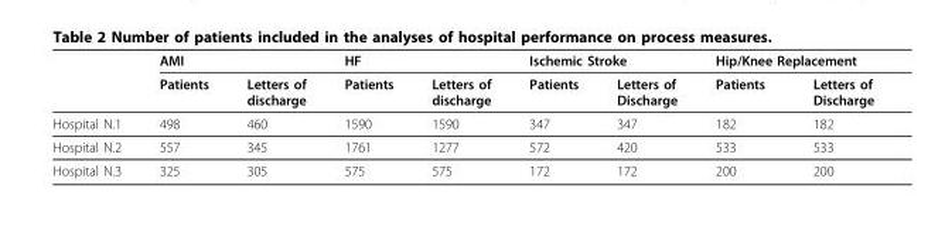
<table><thead><tr><td rowspan="2"></td><td colspan="2">AMI</td><td colspan="2">HF</td><td colspan="2">Ischemic Stroke</td><td colspan="2">Hip/Knee Replacement</td></tr><tr><td>Patients</td><td>Letters of discharge</td><td>Patients</td><td>Letters of discharge</td><td>Patients</td><td>Letters of Discharge</td><td>Patients</td><td>Letters of Discharge</td></tr></thead><tbody><tr><td>Hospital N.1</td><td>498</td><td>460</td><td>1590</td><td>1590</td><td>347</td><td>347</td><td>182</td><td>182</td></tr><tr><td>Hospital N.2</td><td>557</td><td>345</td><td>1761</td><td>1277</td><td>572</td><td>420</td><td>533</td><td>533</td></tr><tr><td>Hospital N.3</td><td>325</td><td>305</td><td>575</td><td>575</td><td>172</td><td>172</td><td>200</td><td>200</td></tr></tbody></table>